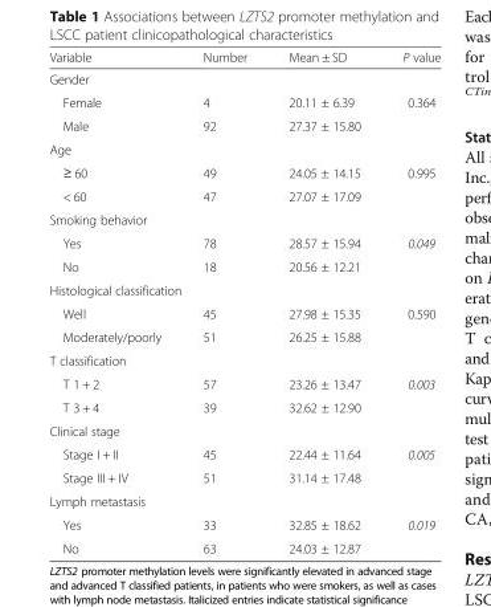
<table><thead><tr><td>Variable</td><td>Number</td><td>Mean ± SD</td><td>P value</td></tr></thead><tbody><tr><td colspan="4">Gender</td></tr><tr><td>Female</td><td>4</td><td>20.11 ± 6.39</td><td rowspan="2">0.364</td></tr><tr><td>Male</td><td>92</td><td>27.37 ± 15.80</td></tr><tr><td colspan="4">Age</td></tr><tr><td>≥ 60</td><td>49</td><td>24.05 ± 14.15</td><td rowspan="2">0.995</td></tr><tr><td>&lt; 60</td><td>47</td><td>27.07 ± 17.09</td></tr><tr><td colspan="4">Smoking behavior</td></tr><tr><td>Yes</td><td>78</td><td>28.57 ± 15.94</td><td rowspan="2">0.049</td></tr><tr><td>No</td><td>18</td><td>20.56 ± 12.21</td></tr><tr><td colspan="4">Histological classification</td></tr><tr><td>Well</td><td>45</td><td>27.98 ± 15.35</td><td rowspan="2">0.590</td></tr><tr><td>Moderately/poorly</td><td>51</td><td>26.25 ± 15.88</td></tr><tr><td colspan="4">T classification</td></tr><tr><td>T 1 + 2</td><td>57</td><td>23.26 ± 13.47</td><td rowspan="2">0.003</td></tr><tr><td>T 3 + 4</td><td>39</td><td>32.62 ± 12.90</td></tr><tr><td colspan="4">Clinical stage</td></tr><tr><td>Stage I + II</td><td>45</td><td>22.44 ± 11.64</td><td>0.005</td></tr><tr><td>Stage III + IV</td><td>51</td><td>31.14 ± 17.48</td><td></td></tr><tr><td colspan="4">Lymph metastasis</td></tr><tr><td>Yes</td><td>33</td><td>32.85 ± 18.62</td><td rowspan="2">0.019</td></tr><tr><td>No</td><td>63</td><td>24.03 ± 12.87</td></tr></tbody></table>